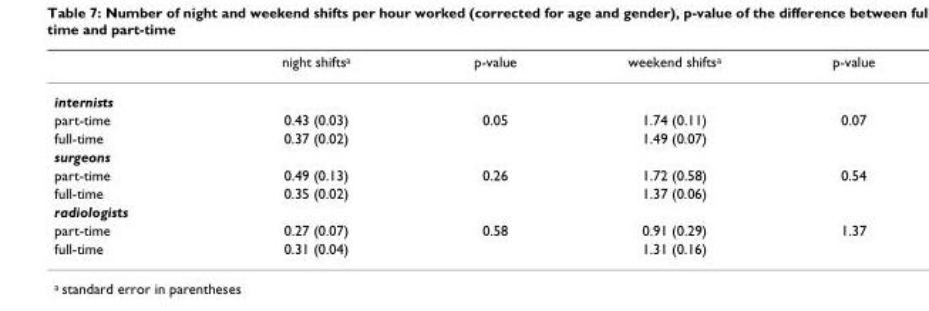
<table><thead><tr><td></td><td>night shiftsa</td><td>p-value</td><td>weekend shiftsa</td><td>p-value</td></tr></thead><tbody><tr><td colspan="5">internists</td></tr><tr><td>part-time</td><td>0.43 (0.03)</td><td>0.05</td><td>1.74 (0.11)</td><td>0.07</td></tr><tr><td>full-time</td><td>0.37 (0.02)</td><td></td><td>1.49 (0.07)</td><td></td></tr><tr><td colspan="5">surgeons</td></tr><tr><td>part-time</td><td>0.49 (0.13)</td><td>0.26</td><td>1.72 (0.58)</td><td>0.54</td></tr><tr><td>full-time</td><td>0.35 (0.02)</td><td></td><td>1.37 (0.06)</td><td></td></tr><tr><td colspan="5">radiologists</td></tr><tr><td>part-time</td><td>0.27 (0.07)</td><td>0.58</td><td>0.91 (0.29)</td><td>1.37</td></tr><tr><td>full-time</td><td>0.31 (0.04)</td><td></td><td>1.31 (0.16)</td><td></td></tr></tbody></table>